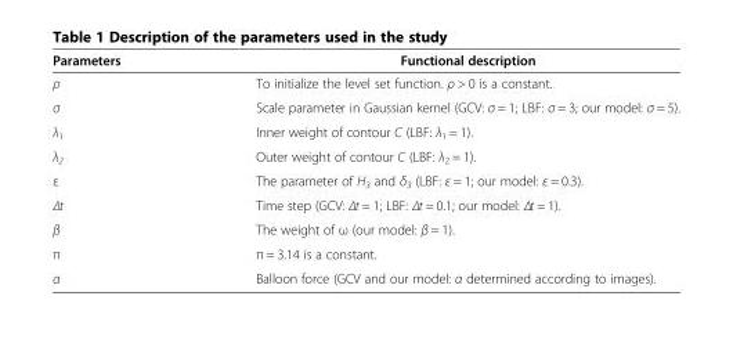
<table><thead><tr><td>Parameters</td><td>Functional description</td></tr></thead><tbody><tr><td>ρ</td><td>To initialize the level set function. ρ &gt; 0 is a constant.</td></tr><tr><td>σ</td><td>Scale parameter in Gaussian kernel (GCV: σ = 1; LBF: σ = 3; our model: σ = 5).</td></tr><tr><td>λ<sub>1</sub></td><td>Inner weight of contour C (LBF: λ<sub>1</sub> = 1).</td></tr><tr><td>λ<sub>2</sub></td><td>Outer weight of contour C (LBF: λ<sub>2</sub> = 1).</td></tr><tr><td>ε</td><td>The parameter of H<sub>3</sub> and δ<sub>3</sub> (LBF: ε = 1; our model: ε = 0.3).</td></tr><tr><td>Δt</td><td>Time step (GCV: Δt = 1; LBF: Δt = 0.1; our model: Δt = 1).</td></tr><tr><td>β</td><td>The weight of ω (our model: β = 1).</td></tr><tr><td>π</td><td>π = 3.14 is a constant.</td></tr><tr><td>α</td><td>Balloon force (GCV and our model: α determined according to images).</td></tr></tbody></table>